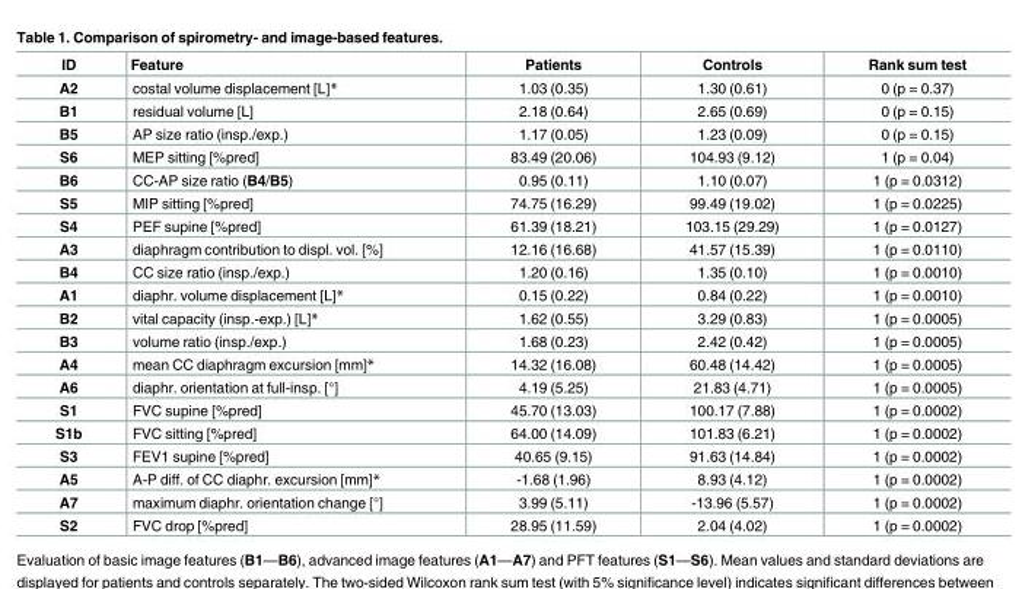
<table><thead><tr><td>ID</td><td>Feature</td><td>Patients</td><td>Controls</td><td>Rank sum test</td></tr></thead><tbody><tr><td>A2</td><td>costal volume displacement [L]*</td><td>1.03 (0.35)</td><td>1.30 (0.61)</td><td>0 (p = 0.37)</td></tr><tr><td>B1</td><td>residual volume [L]</td><td>2.18 (0.64)</td><td>2.65 (0.69)</td><td>0 (p = 0.15)</td></tr><tr><td>B5</td><td>AP size ratio (insp./exp.)</td><td>1.17 (0.05)</td><td>1.23 (0.09)</td><td>0 (p = 0.15)</td></tr><tr><td>S6</td><td>MEP sitting [%pred]</td><td>83.49 (20.06)</td><td>104.93 (9.12)</td><td>1 (p = 0.04)</td></tr><tr><td>B6</td><td>CC-AP size ratio (B4/B5)</td><td>0.95 (0.11)</td><td>1.10 (0.07)</td><td>1 (p = 0.0312)</td></tr><tr><td>S5</td><td>MIP sitting [%pred]</td><td>74.75 (16.29)</td><td>99.49 (19.02)</td><td>1 (p = 0.0225)</td></tr><tr><td>S4</td><td>PEF supine [%pred]</td><td>61.39 (18.21)</td><td>103.15 (29.29)</td><td>1 (p = 0.0127)</td></tr><tr><td>A3</td><td>diaphragm contribution to displ. vol. [%]</td><td>12.16 (16.68)</td><td>41.57 (15.39)</td><td>1 (p = 0.0110)</td></tr><tr><td>B4</td><td>CC size ratio (insp./exp.)</td><td>1.20 (0.16)</td><td>1.35 (0.10)</td><td>1 (p = 0.0010)</td></tr><tr><td>A1</td><td>diaphr. volume displacement [L]*</td><td>0.15 (0.22)</td><td>0.84 (0.22)</td><td>1 (p = 0.0010)</td></tr><tr><td>B2</td><td>vital capacity (insp.-exp.) [L]*</td><td>1.62 (0.55)</td><td>3.29 (0.83)</td><td>1 (p = 0.0005)</td></tr><tr><td>B3</td><td>volume ratio (insp./exp.)</td><td>1.68 (0.23)</td><td>2.42 (0.42)</td><td>1 (p = 0.0005)</td></tr><tr><td>A4</td><td>mean CC diaphragm excursion [mm]*</td><td>14.32 (16.08)</td><td>60.48 (14.42)</td><td>1 (p = 0.0005)</td></tr><tr><td>A6</td><td>diaphr. orientation at full-insp. [°]</td><td>4.19 (5.25)</td><td>21.83 (4.71)</td><td>1 (p = 0.0005)</td></tr><tr><td>S1</td><td>FVC supine [%pred]</td><td>45.70 (13.03)</td><td>100.17 (7.88)</td><td>1 (p = 0.0002)</td></tr><tr><td>S1b</td><td>FVC sitting [%pred]</td><td>64.00 (14.09)</td><td>101.83 (6.21)</td><td>1 (p = 0.0002)</td></tr><tr><td>S3</td><td>FEV1 supine [%pred]</td><td>40.65 (9.15)</td><td>91.63 (14.84)</td><td>1 (p = 0.0002)</td></tr><tr><td>A5</td><td>A-P diff. of CC diaphr. excursion [mm]*</td><td>-1.68 (1.96)</td><td>8.93 (4.12)</td><td>1 (p = 0.0002)</td></tr><tr><td>A7</td><td>maximum diaphr. orientation change [°]</td><td>3.99 (5.11)</td><td>-13.96 (5.57)</td><td>1 (p = 0.0002)</td></tr><tr><td>S2</td><td>FVC drop [%pred]</td><td>28.95 (11.59)</td><td>2.04 (4.02)</td><td>1 (p = 0.0002)</td></tr></tbody></table>